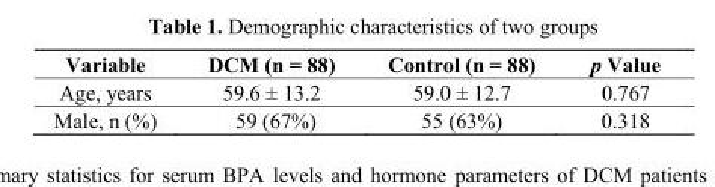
<table><thead><tr><td>Variable</td><td>DCM (n = 88)</td><td>Control (n = 88)</td><td>p Value</td></tr></thead><tbody><tr><td>Age, years</td><td>59.6 ± 13.2</td><td>59.0 ± 12.7</td><td>0.767</td></tr><tr><td>Male, n (%)</td><td>59 (67%)</td><td>55 (63%)</td><td>0.318</td></tr></tbody></table>